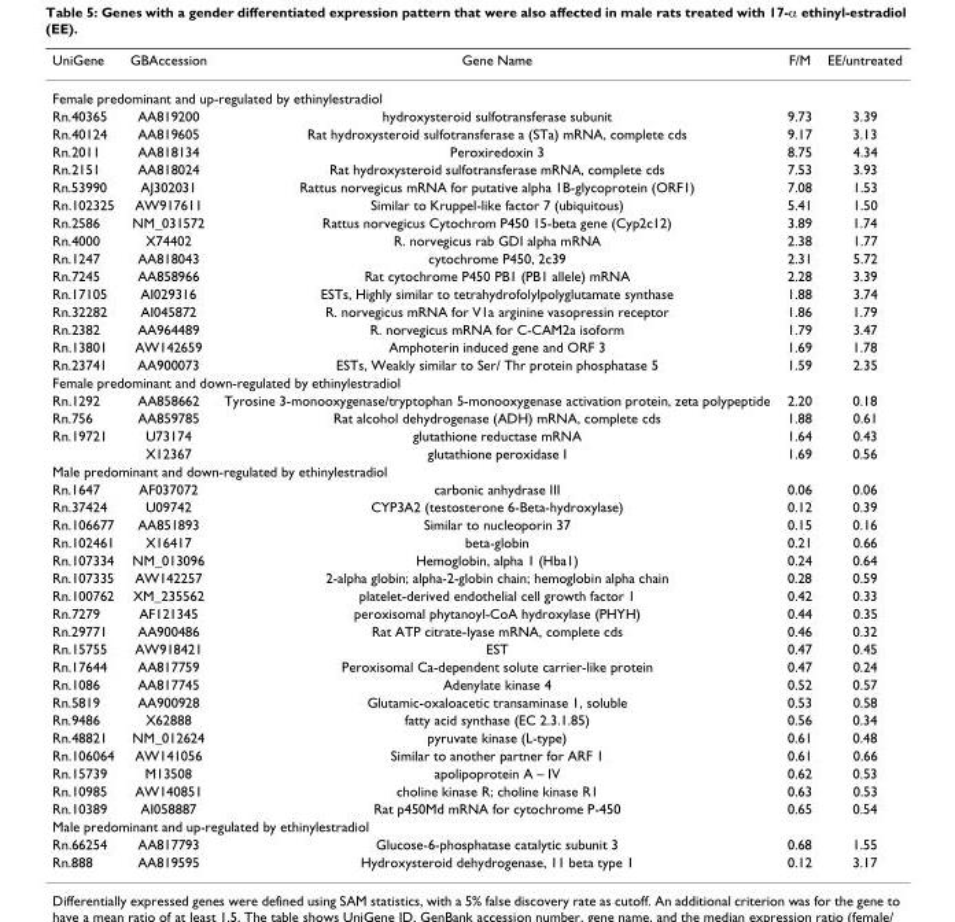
<table><thead><tr><td>UniGene</td><td>GBAccession</td><td>Gene Name</td><td>F/M</td><td>EE/untreated</td></tr></thead><tbody><tr><td colspan="5">Female predominant and up-regulated by ethinylestradiol</td></tr><tr><td>Rn.40365</td><td>AA819200</td><td>hydroxysteroid sulfotransferase subunit</td><td>9.73</td><td>3.39</td></tr><tr><td>Rn.40124</td><td>AA819605</td><td>Rat hydroxysteroid sulfotransferase a (STa) mRNA, complete cds</td><td>9.17</td><td>3.13</td></tr><tr><td>Rn.2011</td><td>AA818134</td><td>Peroxiredoxin 3</td><td>8.75</td><td>4.34</td></tr><tr><td>Rn.2151</td><td>AA818024</td><td>Rat hydroxysteroid sulfotransferase mRNA, complete cds</td><td>7.53</td><td>3.93</td></tr><tr><td>Rn.53990</td><td>AJ302031</td><td>Rattus norvegicus mRNA for putative alpha 1B-glycoprotein (ORF1)</td><td>7.08</td><td>1.53</td></tr><tr><td>Rn.102325</td><td>AW917611</td><td>Similar to Kruppel-like factor 7 (ubiquitous)</td><td>5.41</td><td>1.50</td></tr><tr><td>Rn.2586</td><td>NM_031572</td><td>Rattus norvegicus Cytochrom P450 15-beta gene (Cyp2c12)</td><td>3.89</td><td>1.74</td></tr><tr><td>Rn.4000</td><td>X74402</td><td>R. norvegicus rab GDI alpha mRNA</td><td>2.38</td><td>1.77</td></tr><tr><td>Rn.1247</td><td>AA818043</td><td>cytochrome P450, 2c39</td><td>2.31</td><td>5.72</td></tr><tr><td>Rn.7245</td><td>AA858966</td><td>Rat cytochrome P450 PB1 (PB1 allele) mRNA</td><td>2.28</td><td>3.39</td></tr><tr><td>Rn.17105</td><td>AI029316</td><td>ESTs, Highly similar to tetrahydrofolylpolyglutamate synthase</td><td>1.88</td><td>3.74</td></tr><tr><td>Rn.32282</td><td>AI045872</td><td>R. norvegicus mRNA for V1a arginine vasopressin receptor</td><td>1.86</td><td>1.79</td></tr><tr><td>Rn.2382</td><td>AA964489</td><td>R. norvegicus mRNA for C-CAM2a isoform</td><td>1.79</td><td>3.47</td></tr><tr><td>Rn.13801</td><td>AW142659</td><td>Amphoterin induced gene and ORF 3</td><td>1.69</td><td>1.78</td></tr><tr><td>Rn.23741</td><td>AA900073</td><td>ESTs, Weakly similar to Ser/ Thr protein phosphatase 5</td><td>1.59</td><td>2.35</td></tr><tr><td colspan="5">Female predominant and down-regulated by ethinylestradiol</td></tr><tr><td>Rn.1292</td><td>AA858662</td><td>Tyrosine 3-monooxygenase/tryptophan 5-monooxygenase activation protein, zeta polypeptide</td><td>2.20</td><td>0.18</td></tr><tr><td>Rn.756</td><td>AA859785</td><td>Rat alcohol dehydrogenase (ADH) mRNA, complete cds</td><td>1.88</td><td>0.61</td></tr><tr><td rowspan="2">Rn.19721</td><td>U73174</td><td>glutathione reductase mRNA</td><td>1.64</td><td>0.43</td></tr><tr><td>X12367</td><td>glutathione peroxidase I</td><td>1.69</td><td>0.56</td></tr><tr><td colspan="5">Male predominant and down-regulated by ethinylestradiol</td></tr><tr><td>Rn.1647</td><td>AF037072</td><td>carbonic anhydrase III</td><td>0.06</td><td>0.06</td></tr><tr><td>Rn.37424</td><td>U09742</td><td>CYP3A2 (testosterone 6-Beta-hydroxylase)</td><td>0.12</td><td>0.39</td></tr><tr><td>Rn.106677</td><td>AA851893</td><td>Similar to nucleoporin 37</td><td>0.15</td><td>0.16</td></tr><tr><td>Rn.102461</td><td>X16417</td><td>beta-globin</td><td>0.21</td><td>0.66</td></tr><tr><td>Rn.107334</td><td>NM_013096</td><td>Hemoglobin, alpha 1 (Hba1)</td><td>0.24</td><td>0.64</td></tr><tr><td>Rn.107335</td><td>AW142257</td><td>2-alpha globin; alpha-2-globin chain; hemoglobin alpha chain</td><td>0.28</td><td>0.59</td></tr><tr><td>Rn.100762</td><td>XM_235562</td><td>platelet-derived endothelial cell growth factor 1</td><td>0.42</td><td>0.33</td></tr><tr><td>Rn.7279</td><td>AF121345</td><td>peroxisomal phytanoyl-CoA hydroxylase (PHYH)</td><td>0.44</td><td>0.35</td></tr><tr><td>Rn.29771</td><td>AA900486</td><td>Rat ATP citrate-lyase mRNA, complete cds</td><td>0.46</td><td>0.32</td></tr><tr><td>Rn.15755</td><td>AW918421</td><td>EST</td><td>0.47</td><td>0.45</td></tr><tr><td>Rn.17644</td><td>AA817759</td><td>Peroxisomal Ca-dependent solute carrier-like protein</td><td>0.47</td><td>0.24</td></tr><tr><td>Rn.1086</td><td>AA817745</td><td>Adenylate kinase 4</td><td>0.52</td><td>0.57</td></tr><tr><td>Rn.5819</td><td>AA900928</td><td>Glutamic-oxaloacetic transaminase 1, soluble</td><td>0.53</td><td>0.58</td></tr><tr><td>Rn.9486</td><td>X62888</td><td>fatty acid synthase (EC 2.3.1.85)</td><td>0.56</td><td>0.34</td></tr><tr><td>Rn.48821</td><td>NM_012624</td><td>pyruvate kinase (L-type)</td><td>0.61</td><td>0.48</td></tr><tr><td>Rn.106064</td><td>AW141056</td><td>Similar to another partner for ARF 1</td><td>0.61</td><td>0.66</td></tr><tr><td>Rn.15739</td><td>M13508</td><td>apolipoprotein A – IV</td><td>0.62</td><td>0.53</td></tr><tr><td>Rn.10985</td><td>AW140851</td><td>choline kinase R; choline kinase R1</td><td>0.63</td><td>0.53</td></tr><tr><td>Rn.10389</td><td>AI058887</td><td>Rat p450Md mRNA for cytochrome P-450</td><td>0.65</td><td>0.54</td></tr><tr><td colspan="5">Male predominant and up-regulated by ethinylestradiol</td></tr><tr><td>Rn.66254</td><td>AA817793</td><td>Glucose-6-phosphatase catalytic subunit 3</td><td>0.68</td><td>1.55</td></tr><tr><td>Rn.888</td><td>AA819595</td><td>Hydroxysteroid dehydrogenase, 11 beta type 1</td><td>0.12</td><td>3.17</td></tr></tbody></table>